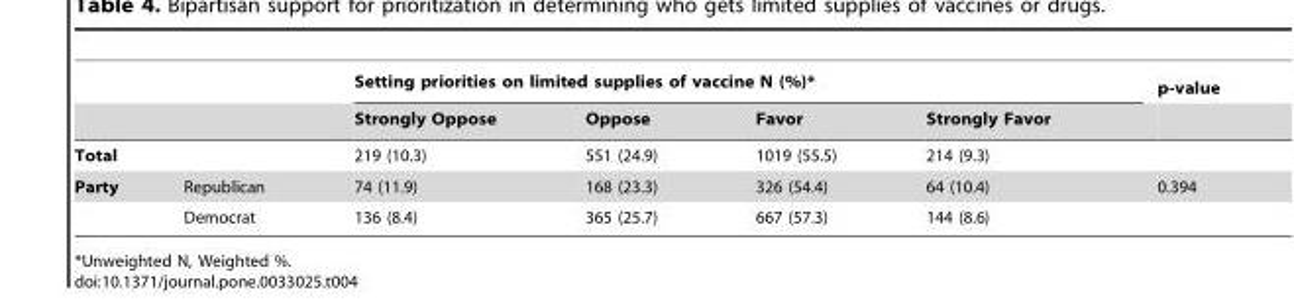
<table><thead><tr><td rowspan="2"></td><td rowspan="2"></td><td colspan="4">Setting priorities on limited supplies of vaccine N (%)*</td><td rowspan="2">p-value</td></tr><tr><td>Strongly Oppose</td><td>Oppose</td><td>Favor</td><td>Strongly Favor</td></tr></thead><tbody><tr><td>Total</td><td></td><td>219 (10.3)</td><td>551 (24.9)</td><td>1019 (55.5)</td><td>214 (9.3)</td><td></td></tr><tr><td rowspan="2">Party</td><td>Republican</td><td>74 (11.9)</td><td>168 (23.3)</td><td>326 (54.4)</td><td>64 (10.4)</td><td>0.394</td></tr><tr><td>Democrat</td><td>136 (8.4)</td><td>365 (25.7)</td><td>667 (57.3)</td><td>144 (8.6)</td><td></td></tr></tbody></table>